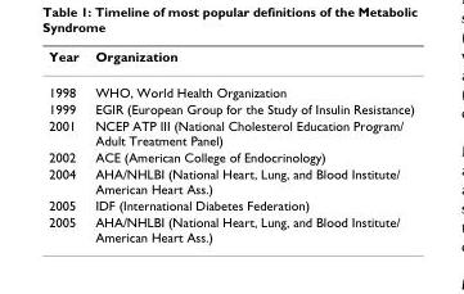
<table><thead><tr><td>Year</td><td>Organization</td></tr></thead><tbody><tr><td>1998</td><td>WHO, World Health Organization</td></tr><tr><td>1999</td><td>EGIR (European Group for the Study of Insulin Resistance)</td></tr><tr><td>2001</td><td>NCEP ATP III (National Cholesterol Education Program/ Adult Treatment Panel)</td></tr><tr><td>2002</td><td>ACE (American College of Endocrinology)</td></tr><tr><td>2004</td><td>AHA/NHLBI (National Heart, Lung, and Blood Institute/ American Heart Ass.)</td></tr><tr><td>2005</td><td>IDF (International Diabetes Federation)</td></tr><tr><td>2005</td><td>AHA/NHLBI (National Heart, Lung, and Blood Institute/ American Heart Ass.)</td></tr></tbody></table>